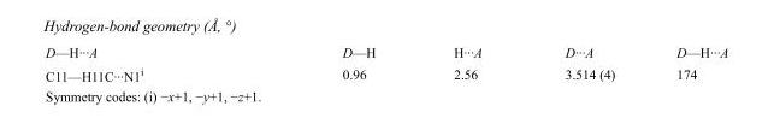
<table><tbody><tr><td>D—H···A</td><td>D—H</td><td>H···A</td><td>D···A</td><td>D—H···A</td></tr><tr><td>C11—H11C···N1<sup>i</sup></td><td>0.96</td><td>2.56</td><td>3.514 (4)</td><td>174</td></tr></tbody></table>